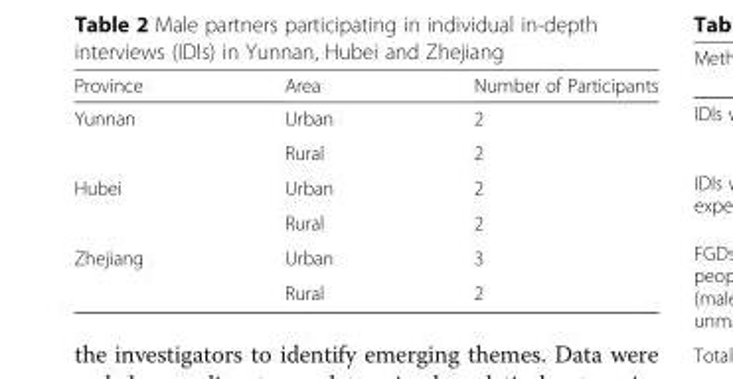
<table><thead><tr><td>Province</td><td>Area</td><td>Number of Participants</td></tr></thead><tbody><tr><td rowspan="2">Yunnan</td><td>Urban</td><td>2</td></tr><tr><td>Rural</td><td>2</td></tr><tr><td rowspan="2">Hubei</td><td>Urban</td><td>2</td></tr><tr><td>Rural</td><td>2</td></tr><tr><td rowspan="2">Zhejiang</td><td>Urban</td><td>3</td></tr><tr><td>Rural</td><td>2</td></tr></tbody></table>